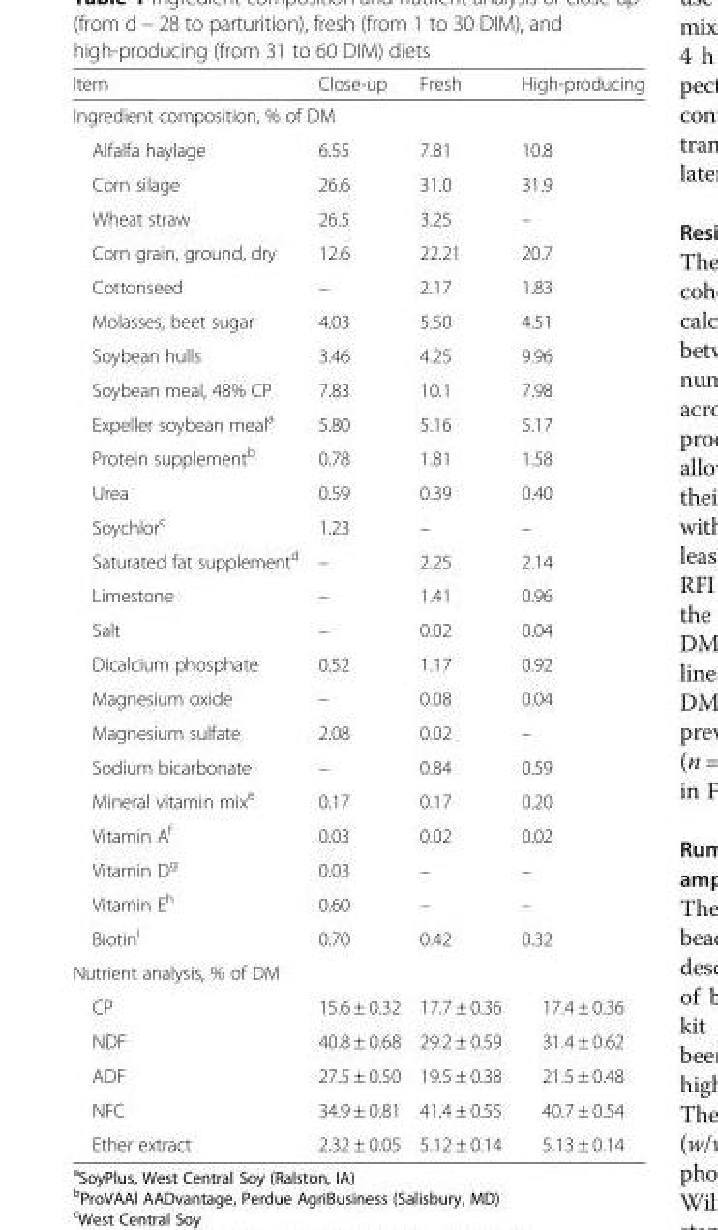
<table><thead><tr><td>Item</td><td>Close-up</td><td>Fresh</td><td>High-producing</td></tr></thead><tbody><tr><td colspan="4">Ingredient composition, % of DM</td></tr><tr><td>Alfalfa haylage</td><td>6.55</td><td>7.81</td><td>10.8</td></tr><tr><td>Corn silage</td><td>26.6</td><td>31.0</td><td>31.9</td></tr><tr><td>Wheat straw</td><td>26.5</td><td>3.25</td><td>–</td></tr><tr><td>Corn grain, ground, dry</td><td>12.6</td><td>22.21</td><td>20.7</td></tr><tr><td>Cottonseed</td><td>–</td><td>2.17</td><td>1.83</td></tr><tr><td>Molasses, beet sugar</td><td>4.03</td><td>5.50</td><td>4.51</td></tr><tr><td>Soybean hulls</td><td>3.46</td><td>4.25</td><td>9.96</td></tr><tr><td>Soybean meal, 48% CP</td><td>7.83</td><td>10.1</td><td>7.98</td></tr><tr><td>Expeller soybean meal<sup>a</sup></td><td>5.80</td><td>5.16</td><td>5.17</td></tr><tr><td>Protein supplement<sup>b</sup></td><td>0.78</td><td>1.81</td><td>1.58</td></tr><tr><td>Urea</td><td>0.59</td><td>0.39</td><td>0.40</td></tr><tr><td>Soychlor<sup>c</sup></td><td>1.23</td><td>–</td><td>–</td></tr><tr><td>Saturated fat supplement<sup>d</sup></td><td>–</td><td>2.25</td><td>2.14</td></tr><tr><td>Limestone</td><td>–</td><td>1.41</td><td>0.96</td></tr><tr><td>Salt</td><td>–</td><td>0.02</td><td>0.04</td></tr><tr><td>Dicalcium phosphate</td><td>0.52</td><td>1.17</td><td>0.92</td></tr><tr><td>Magnesium oxide</td><td>–</td><td>0.08</td><td>0.04</td></tr><tr><td>Magnesium sulfate</td><td>2.08</td><td>0.02</td><td>–</td></tr><tr><td>Sodium bicarbonate</td><td>–</td><td>0.84</td><td>0.59</td></tr><tr><td>Mineral vitamin mix<sup>e</sup></td><td>0.17</td><td>0.17</td><td>0.20</td></tr><tr><td>Vitamin A<sup>f</sup></td><td>0.03</td><td>0.02</td><td>0.02</td></tr><tr><td>Vitamin D<sup>g</sup></td><td>0.03</td><td>–</td><td>–</td></tr><tr><td>Vitamin E<sup>h</sup></td><td>0.60</td><td>–</td><td>–</td></tr><tr><td>Biotin<sup>i</sup></td><td>0.70</td><td>0.42</td><td>0.32</td></tr><tr><td colspan="4">Nutrient analysis, % of DM</td></tr><tr><td>CP</td><td>15.6 ± 0.32</td><td>17.7 ± 0.36</td><td>17.4 ± 0.36</td></tr><tr><td>NDF</td><td>40.8 ± 0.68</td><td>29.2 ± 0.59</td><td>31.4 ± 0.62</td></tr><tr><td>ADF</td><td>27.5 ± 0.50</td><td>19.5 ± 0.38</td><td>21.5 ± 0.48</td></tr><tr><td>NFC</td><td>34.9 ± 0.81</td><td>41.4 ± 0.55</td><td>40.7 ± 0.54</td></tr><tr><td>Ether extract</td><td>2.32 ± 0.05</td><td>5.12 ± 0.14</td><td>5.13 ± 0.14</td></tr></tbody></table>